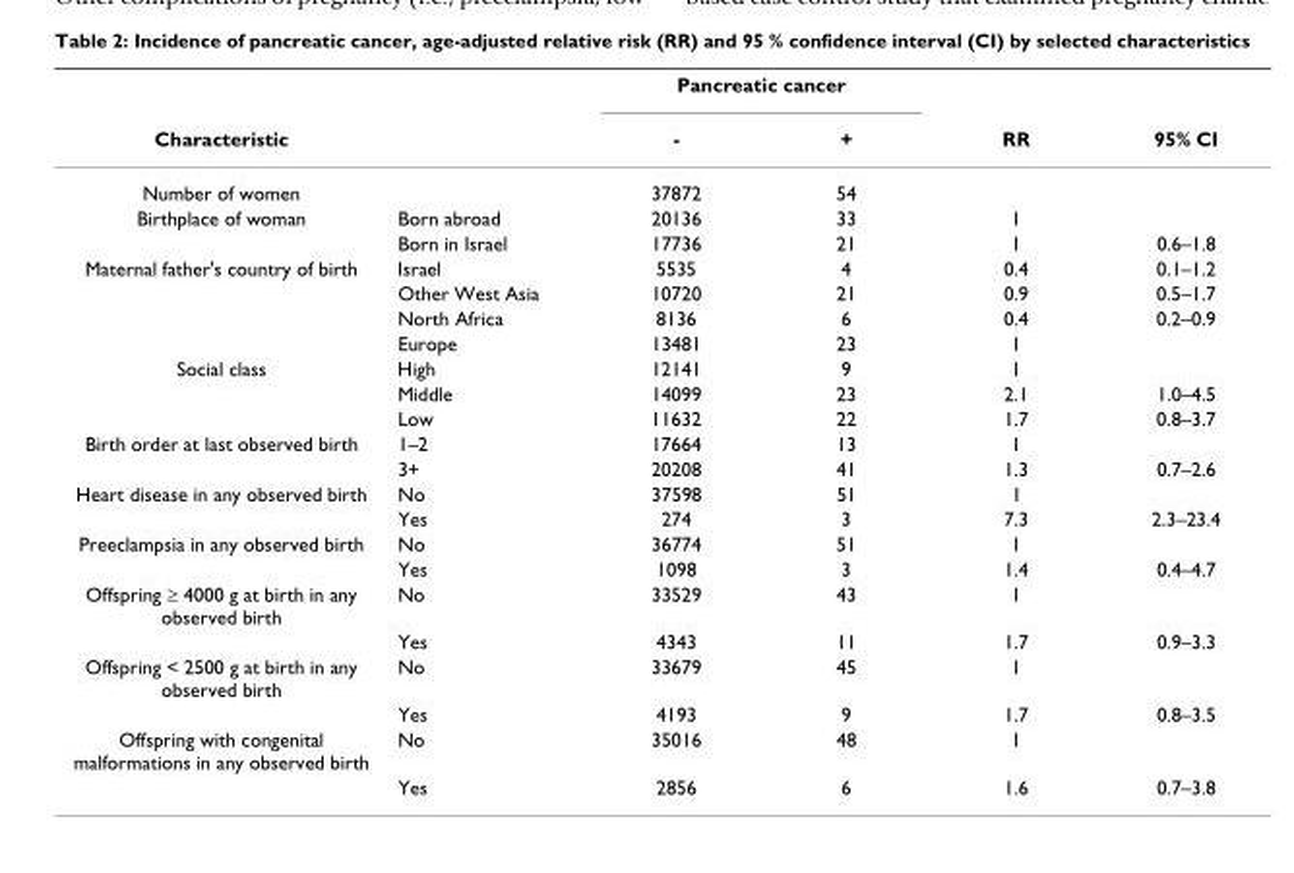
<table><thead><tr><td rowspan="2">Characteristic</td><td rowspan="2"></td><td colspan="2">Pancreatic cancer</td><td rowspan="2">RR</td><td rowspan="2">95% CI</td></tr><tr><td>-</td><td>+</td></tr></thead><tbody><tr><td>Number of women</td><td></td><td>37872</td><td>54</td><td></td><td></td></tr><tr><td rowspan="2">Birthplace of woman</td><td>Born abroad</td><td>20136</td><td>33</td><td>1</td><td></td></tr><tr><td>Born in Israel</td><td>17736</td><td>21</td><td>1</td><td>0.6–1.8</td></tr><tr><td rowspan="4">Maternal father&#x27;s country of birth</td><td>Israel</td><td>5535</td><td>4</td><td>0.4</td><td>0.1–1.2</td></tr><tr><td>Other West Asia</td><td>10720</td><td>21</td><td>0.9</td><td>0.5–1.7</td></tr><tr><td>North Africa</td><td>8136</td><td>6</td><td>0.4</td><td>0.2–0.9</td></tr><tr><td>Europe</td><td>13481</td><td>23</td><td>1</td><td></td></tr><tr><td rowspan="3">Social class</td><td>High</td><td>12141</td><td>9</td><td>1</td><td></td></tr><tr><td>Middle</td><td>14099</td><td>23</td><td>2.1</td><td>1.0–4.5</td></tr><tr><td>Low</td><td>11632</td><td>22</td><td>1.7</td><td>0.8–3.7</td></tr><tr><td rowspan="2">Birth order at last observed birth</td><td>1–2</td><td>17664</td><td>13</td><td>1</td><td></td></tr><tr><td>3+</td><td>20208</td><td>41</td><td>1.3</td><td>0.7–2.6</td></tr><tr><td rowspan="2">Heart disease in any observed birth</td><td>No</td><td>37598</td><td>51</td><td>1</td><td></td></tr><tr><td>Yes</td><td>274</td><td>3</td><td>7.3</td><td>2.3–23.4</td></tr><tr><td rowspan="2">Preeclampsia in any observed birth</td><td>No</td><td>36774</td><td>51</td><td>1</td><td></td></tr><tr><td>Yes</td><td>1098</td><td>3</td><td>1.4</td><td>0.4–4.7</td></tr><tr><td rowspan="2">Offspring ≥ 4000 g at birth in any observed birth</td><td>No</td><td>33529</td><td>43</td><td>1</td><td></td></tr><tr><td>Yes</td><td>4343</td><td>11</td><td>1.7</td><td>0.9–3.3</td></tr><tr><td rowspan="2">Offspring &lt; 2500 g at birth in any observed birth</td><td>No</td><td>33679</td><td>45</td><td>1</td><td></td></tr><tr><td>Yes</td><td>4193</td><td>9</td><td>1.7</td><td>0.8–3.5</td></tr><tr><td rowspan="2">Offspring with congenital malformations in any observed birth</td><td>No</td><td>35016</td><td>48</td><td>1</td><td></td></tr><tr><td>Yes</td><td>2856</td><td>6</td><td>1.6</td><td>0.7–3.8</td></tr></tbody></table>